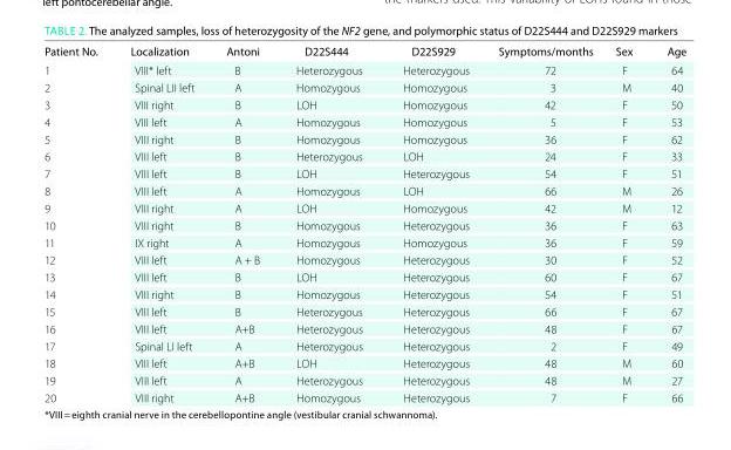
<table><thead><tr><td>Patient No.</td><td>localization</td><td>antoni</td><td>D22s444</td><td>D22s929</td><td>symptoms/months</td><td>sex</td><td>age</td></tr></thead><tbody><tr><td>1</td><td>VIII* left</td><td>B</td><td>Heterozygous</td><td>Heterozygous</td><td>72</td><td>F</td><td>64</td></tr><tr><td>2</td><td>Spinal LII left</td><td>A</td><td>Homozygous</td><td>Homozygous</td><td>3</td><td>M</td><td>40</td></tr><tr><td>3</td><td>VIII right</td><td>B</td><td>LOH</td><td>Homozygous</td><td>42</td><td>F</td><td>50</td></tr><tr><td>4</td><td>VIII left</td><td>A</td><td>Homozygous</td><td>Homozygous</td><td>5</td><td>F</td><td>53</td></tr><tr><td>5</td><td>VIII right</td><td>B</td><td>Homozygous</td><td>Homozygous</td><td>36</td><td>F</td><td>62</td></tr><tr><td>6</td><td>VIII left</td><td>B</td><td>Heterozygous</td><td>LOH</td><td>24</td><td>F</td><td>33</td></tr><tr><td>7</td><td>VIII left</td><td>B</td><td>LOH</td><td>Heterozygous</td><td>54</td><td>F</td><td>51</td></tr><tr><td>8</td><td>VIII left</td><td>A</td><td>Homozygous</td><td>LOH</td><td>66</td><td>M</td><td>26</td></tr><tr><td>9</td><td>VIII right</td><td>A</td><td>LOH</td><td>Homozygous</td><td>42</td><td>M</td><td>12</td></tr><tr><td>10</td><td>VIII right</td><td>B</td><td>Homozygous</td><td>Heterozygous</td><td>36</td><td>F</td><td>63</td></tr><tr><td>11</td><td>IX right</td><td>A</td><td>Homozygous</td><td>Homozygous</td><td>36</td><td>F</td><td>59</td></tr><tr><td>12</td><td>VIII left</td><td>A + B</td><td>Homozygous</td><td>Heterozygous</td><td>30</td><td>F</td><td>52</td></tr><tr><td>13</td><td>VIII left</td><td>B</td><td>LOH</td><td>Heterozygous</td><td>60</td><td>F</td><td>67</td></tr><tr><td>14</td><td>VIII right</td><td>B</td><td>Homozygous</td><td>Heterozygous</td><td>54</td><td>F</td><td>51</td></tr><tr><td>15</td><td>VIII left</td><td>B</td><td>Heterozygous</td><td>Heterozygous</td><td>66</td><td>F</td><td>67</td></tr><tr><td>16</td><td>VIII left</td><td>A+B</td><td>Heterozygous</td><td>Heterozygous</td><td>48</td><td>F</td><td>67</td></tr><tr><td>17</td><td>Spinal LI left</td><td>A</td><td>Heterozygous</td><td>Heterozygous</td><td>2</td><td>F</td><td>49</td></tr><tr><td>18</td><td>VIII left</td><td>A+B</td><td>LOH</td><td>Heterozygous</td><td>48</td><td>M</td><td>60</td></tr><tr><td>19</td><td>VIII left</td><td>A</td><td>Heterozygous</td><td>Heterozygous</td><td>48</td><td>M</td><td>27</td></tr><tr><td>20</td><td>VIII right</td><td>A+B</td><td>Homozygous</td><td>Heterozygous</td><td>7</td><td>F</td><td>66</td></tr></tbody></table>